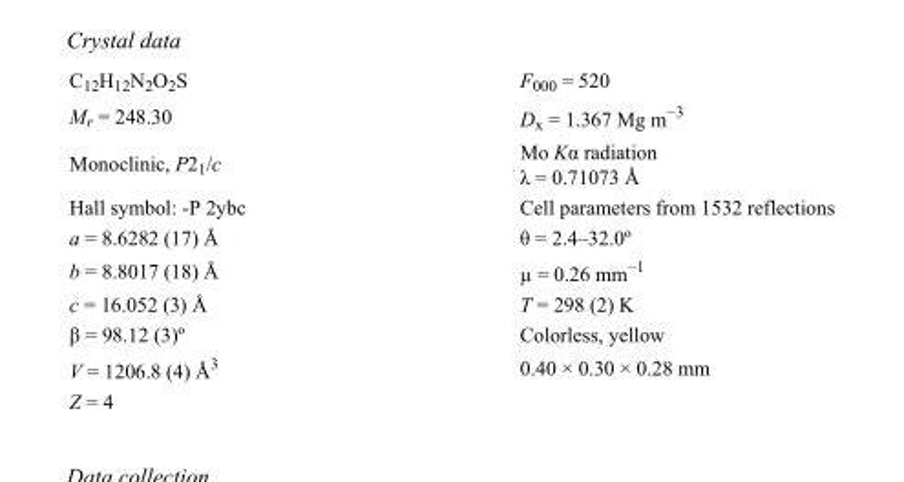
<table><tbody><tr><td>C<sub>12</sub>H<sub>12</sub>N<sub>2</sub>O<sub>2</sub>S</td><td>F000 = 520</td></tr><tr><td>M<sub>r</sub> = 248.30</td><td>D<sub>x</sub> = 1.367 Mg m<sup>−3</sup></td></tr><tr><td>Monoclinic, P2<sub>1</sub>/c</td><td>Mo Kα radiation λ = 0.71073 Å</td></tr><tr><td>Hall symbol: -P 2ybc</td><td>Cell parameters from 1532 reflections</td></tr><tr><td>a = 8.6282 (17) Å</td><td>θ = 2.4–32.0º</td></tr><tr><td>b = 8.8017 (18) Å</td><td>µ = 0.26 mm<sup>−1</sup></td></tr><tr><td>c = 16.052 (3) Å</td><td>T = 298 (2) K</td></tr><tr><td>β = 98.12 (3)º</td><td>Colorless, yellow</td></tr><tr><td>V = 1206.8 (4) Å<sup>3</sup></td><td>0.40 × 0.30 × 0.28 mm</td></tr><tr><td>Z = 4</td><td></td></tr></tbody></table>